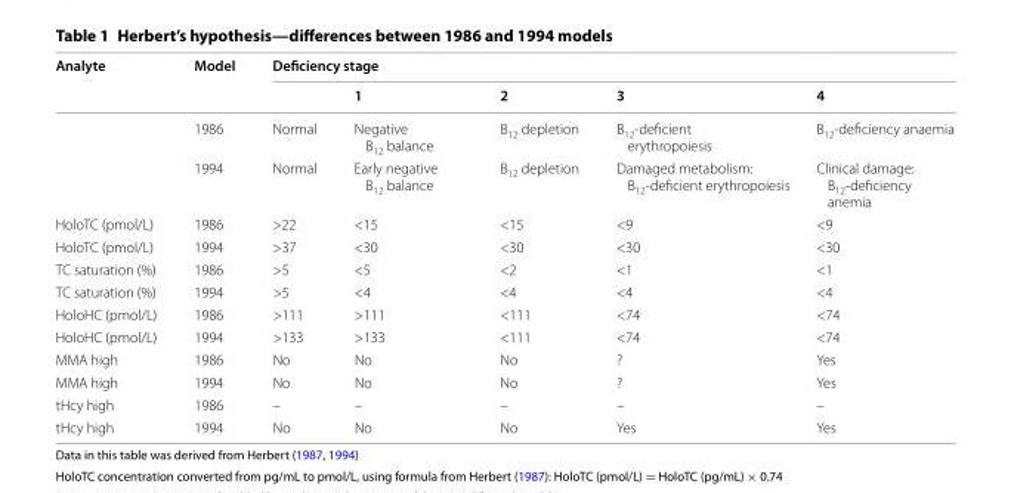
<table><thead><tr><td rowspan="2">Analyte</td><td rowspan="2">Model</td><td colspan="5">Deficiency stage</td></tr><tr><td></td><td>1</td><td>2</td><td>3</td><td>4</td></tr></thead><tbody><tr><td></td><td>1986</td><td>Normal</td><td>Negative B<sub>12</sub> balance</td><td>B<sub>12</sub> depletion</td><td>B<sub>12</sub>-deficient erythropoiesis</td><td>B<sub>12</sub>-deficiency anaemia</td></tr><tr><td></td><td>1994</td><td>Normal</td><td>Early negative B<sub>12</sub> balance</td><td>B<sub>12</sub> depletion</td><td>Damaged metabolism: B<sub>12</sub>-deficient erythropoiesis</td><td>Clinical damage: B<sub>12</sub>-deficiency anemia</td></tr><tr><td>HoloTC (pmol/L)</td><td>1986</td><td>&gt;22</td><td>&lt;15</td><td>&lt;15</td><td>&lt;9</td><td>&lt;9</td></tr><tr><td>HoloTC (pmol/L)</td><td>1994</td><td>&gt;37</td><td>&lt;30</td><td>&lt;30</td><td>&lt;30</td><td>&lt;30</td></tr><tr><td>TC saturation (%)</td><td>1986</td><td>&gt;5</td><td>&lt;5</td><td>&lt;2</td><td>&lt;1</td><td>&lt;1</td></tr><tr><td>TC saturation (%)</td><td>1994</td><td>&gt;5</td><td>&lt;4</td><td>&lt;4</td><td>&lt;4</td><td>&lt;4</td></tr><tr><td>HoloHC (pmol/L)</td><td>1986</td><td>&gt;111</td><td>&gt;111</td><td>&lt;111</td><td>&lt;74</td><td>&lt;74</td></tr><tr><td>HoloHC (pmol/L)</td><td>1994</td><td>&gt;133</td><td>&gt;133</td><td>&lt;111</td><td>&lt;74</td><td>&lt;74</td></tr><tr><td>MMA high</td><td>1986</td><td>No</td><td>No</td><td>No</td><td>?</td><td>Yes</td></tr><tr><td>MMA high</td><td>1994</td><td>No</td><td>No</td><td>No</td><td>?</td><td>Yes</td></tr><tr><td>tHcy high</td><td>1986</td><td>–</td><td>–</td><td>–</td><td>–</td><td>–</td></tr><tr><td>tHcy high</td><td>1994</td><td>No</td><td>No</td><td>No</td><td>Yes</td><td>Yes</td></tr></tbody></table>